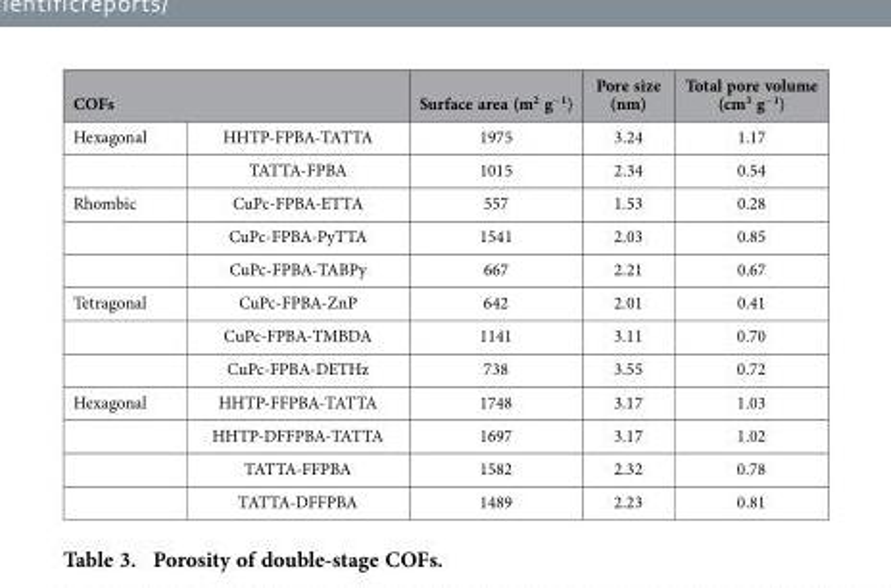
<table><thead><tr><td colspan="2">COFs</td><td rowspan="2">Surface area (m<sup>2</sup> g<sup>−1</sup>) 1975</td><td rowspan="2">Pore size (nm) 3.24</td><td rowspan="2">Total pore volume (cm<sup>3</sup> g<sup>−1</sup>) 1.17</td></tr><tr><td>Hexagonal</td><td>HHTP-FPBA-TATTA</td></tr></thead><tbody><tr><td></td><td>TATTA-FPBA</td><td>1015</td><td>2.34</td><td>0.54</td></tr><tr><td rowspan="3">Rhombic</td><td>CuPc-FPBA-ETTA</td><td>557</td><td>1.53</td><td>0.28</td></tr><tr><td>CuPc-FPBA-PyTTA</td><td>1541</td><td>2.03</td><td>0.85</td></tr><tr><td>CuPc-FPBA-TABPy</td><td>667</td><td>2.21</td><td>0.67</td></tr><tr><td rowspan="3">Tetragonal</td><td>CuPc-FPBA-ZnP</td><td>642</td><td>2.01</td><td>0.41</td></tr><tr><td>CuPc-FPBA-TMBDA</td><td>1141</td><td>3.11</td><td>0.70</td></tr><tr><td>CuPc-FPBA-DETHz</td><td>738</td><td>3.55</td><td>0.72</td></tr><tr><td rowspan="4">Hexagonal</td><td>HHTP-FFPBA-TATTA</td><td>1748</td><td>3.17</td><td>1.03</td></tr><tr><td>HHTP-DFFPBA-TATTA</td><td>1697</td><td>3.17</td><td>1.02</td></tr><tr><td>TATTA-FFPBA</td><td>1582</td><td>2.32</td><td>0.78</td></tr><tr><td>TATTA-DFFPBA</td><td>1489</td><td>2.23</td><td>0.81</td></tr></tbody></table>